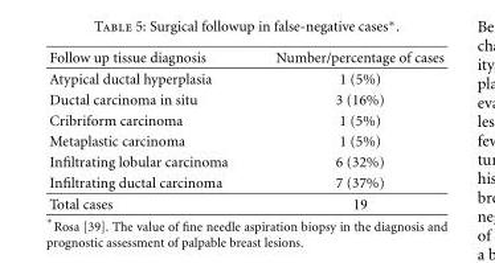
<table><thead><tr><td>Follow up tissue diagnosis</td><td>Number/percentage of cases</td></tr></thead><tbody><tr><td>Atypical ductal hyperplasia</td><td>1 (5%)</td></tr><tr><td>Ductal carcinoma in situ</td><td>3 (16%)</td></tr><tr><td>Cribriform carcinoma</td><td>1 (5%)</td></tr><tr><td>Metaplastic carcinoma</td><td>1 (5%)</td></tr><tr><td>Infiltrating lobular carcinoma</td><td>6 (32%)</td></tr><tr><td>Infiltrating ductal carcinoma</td><td>7 (37%)</td></tr><tr><td>Total cases</td><td>19</td></tr></tbody></table>